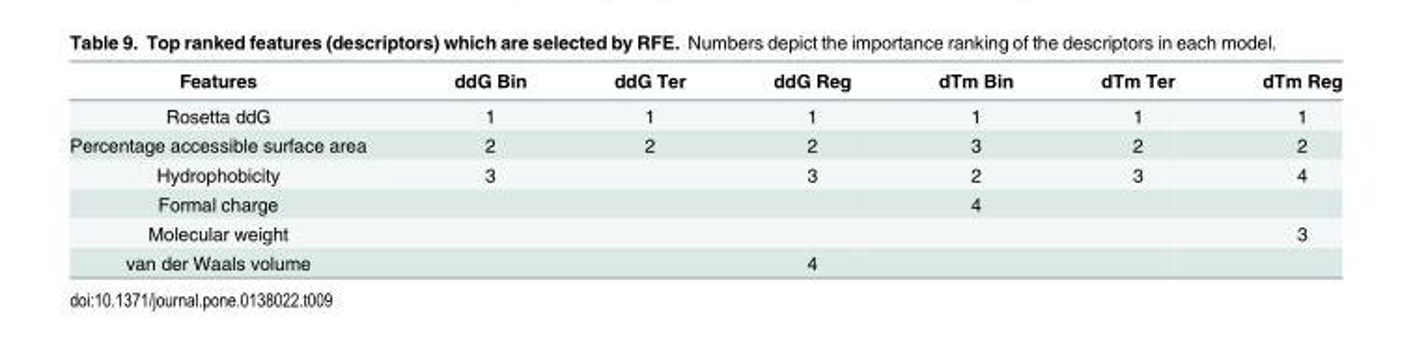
<table><thead><tr><td>Features</td><td>ddG Bin</td><td>ddG Ter</td><td>ddG Reg</td><td>dTm Bin</td><td>dTm Ter</td><td>dTm Reg</td></tr></thead><tbody><tr><td>Rosetta ddG</td><td>1</td><td>1</td><td>1</td><td>1</td><td>1</td><td>1</td></tr><tr><td>Percentage accessible surface area</td><td>2</td><td>2</td><td>2</td><td>3</td><td>2</td><td>2</td></tr><tr><td>Hydrophobicity</td><td>3</td><td></td><td>3</td><td>2</td><td>3</td><td>4</td></tr><tr><td>Formal charge</td><td></td><td></td><td></td><td>4</td><td></td><td></td></tr><tr><td>Molecular weight</td><td></td><td></td><td></td><td></td><td></td><td>3</td></tr><tr><td>van der Waals volume</td><td></td><td></td><td>4</td><td></td><td></td><td></td></tr></tbody></table>